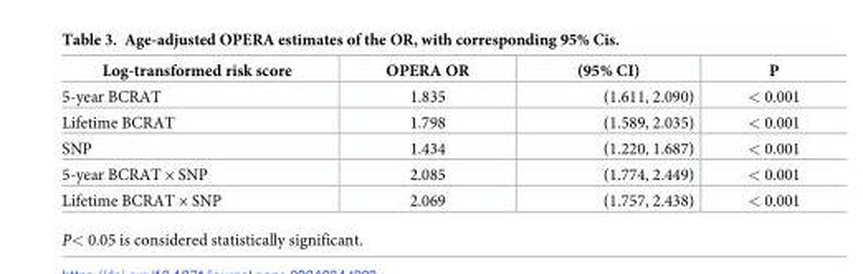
<table><thead><tr><td>Log-transformed risk score</td><td>OPERA OR</td><td>(95% CI)</td><td>P</td></tr></thead><tbody><tr><td>5-year BCRAT</td><td>1.835</td><td>(1.611, 2.090)</td><td>&lt; 0.001</td></tr><tr><td>Lifetime BCRAT</td><td>1.798</td><td>(1.589, 2.035)</td><td>&lt; 0.001</td></tr><tr><td>SNP</td><td>1.434</td><td>(1.220, 1.687)</td><td>&lt; 0.001</td></tr><tr><td>5-year BCRAT × SNP</td><td>2.085</td><td>(1.774, 2.449)</td><td>&lt; 0.001</td></tr><tr><td>Lifetime BCRAT × SNP</td><td>2.069</td><td>(1.757, 2.438)</td><td>&lt; 0.001</td></tr></tbody></table>